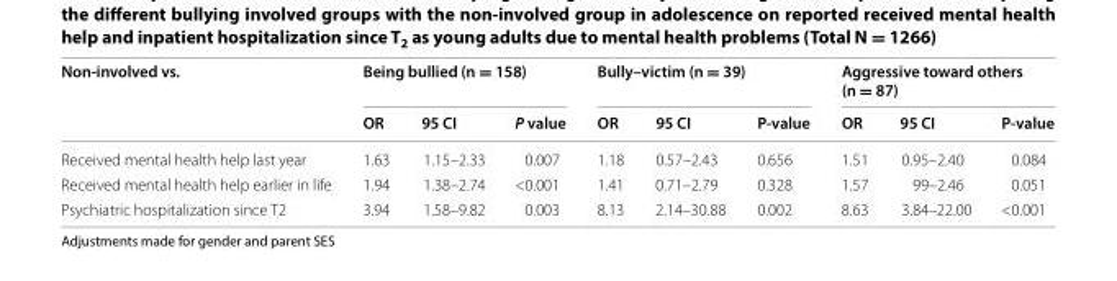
<table><thead><tr><td rowspan="2">Non-involved vs.</td><td colspan="3">Being bullied (n = 158)</td><td colspan="3">Bully–victim (n = 39)</td><td colspan="3">Aggressive toward others (n = 87)</td></tr><tr><td>OR</td><td>95 CI</td><td>P value</td><td>OR</td><td>95 CI</td><td>P-value</td><td>OR</td><td>95 CI</td><td>P-value</td></tr></thead><tbody><tr><td>Received mental health help last year</td><td>1.63</td><td>1.15–2.33</td><td>0.007</td><td>1.18</td><td>0.57–2.43</td><td>0.656</td><td>1.51</td><td>0.95–2.40</td><td>0.084</td></tr><tr><td>Received mental health help earlier in life</td><td>1.94</td><td>1.38–2.74</td><td>&lt;0.001</td><td>1.41</td><td>0.71–2.79</td><td>0.328</td><td>1.57</td><td>99–2.46</td><td>0.051</td></tr><tr><td>Psychiatric hospitalization since T2</td><td>3.94</td><td>1.58–9.82</td><td>0.003</td><td>8.13</td><td>2.14–30.88</td><td>0.002</td><td>8.63</td><td>3.84–22.00</td><td>&lt;0.001</td></tr></tbody></table>